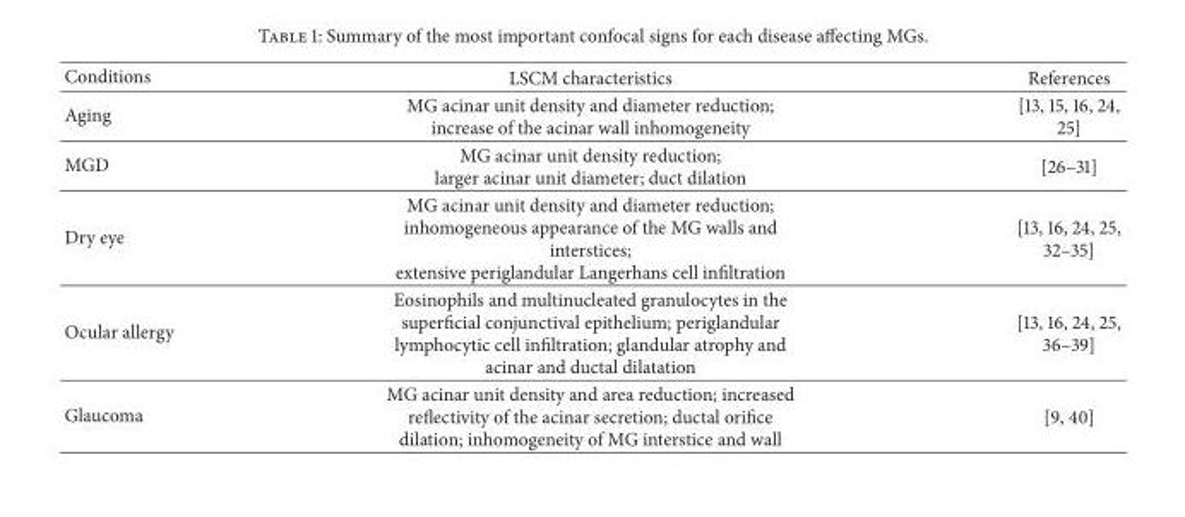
<table><thead><tr><td>Conditions</td><td>LSCM characteristics</td><td>References</td></tr></thead><tbody><tr><td>Aging</td><td>MG acinar unit density and diameter reduction; increase of the acinar wall inhomogeneity</td><td>[13, 15, 16, 24, 25]</td></tr><tr><td>MGD</td><td>MG acinar unit density reduction; larger acinar unit diameter; duct dilation</td><td>[26–31]</td></tr><tr><td>Dry eye</td><td>MG acinar unit density and diameter reduction; inhomogeneous appearance of the MG walls and interstices; extensive periglandular Langerhans cell infiltration</td><td>[13, 16, 24, 25, 32–35]</td></tr><tr><td>Ocular allergy</td><td>Eosinophils and multinucleated granulocytes in the superficial conjunctival epithelium; periglandular lymphocytic cell infiltration; glandular atrophy and acinar and ductal dilatation</td><td>[13, 16, 24, 25, 36–39]</td></tr><tr><td>Glaucoma</td><td>MG acinar unit density and area reduction; increased reflectivity of the acinar secretion; ductal orifice dilation; inhomogeneity of MG interstice and wall</td><td>[9, 40]</td></tr></tbody></table>